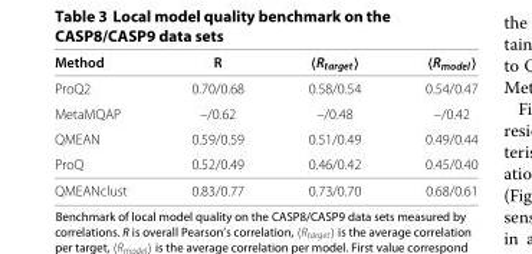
<table><thead><tr><td>Method</td><td>R</td><td>⟨Rtarget⟩</td><td>⟨Rmodel⟩</td></tr></thead><tbody><tr><td>ProQ2</td><td>0.70/0.68</td><td>0.58/0.54</td><td>0.54/0.47</td></tr><tr><td>MetaMQAP</td><td>–/0.62</td><td>–/0.48</td><td>–/0.42</td></tr><tr><td>QMEAN</td><td>0.59/0.59</td><td>0.51/0.49</td><td>0.49/0.44</td></tr><tr><td>ProQ</td><td>0.52/0.49</td><td>0.46/0.42</td><td>0.45/0.40</td></tr><tr><td>QMEANclust</td><td>0.83/0.77</td><td>0.73/0.70</td><td>0.68/0.61</td></tr></tbody></table>